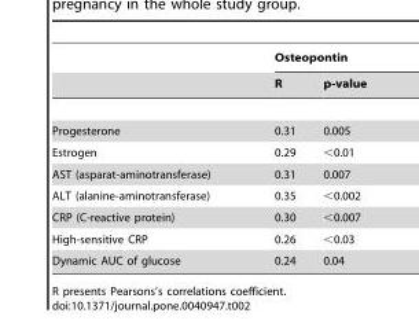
<table><thead><tr><td rowspan="2"></td><td colspan="2">Osteopontin</td></tr><tr><td>R</td><td>p-value</td></tr></thead><tbody><tr><td>Progesterone</td><td>0.31</td><td>0.005</td></tr><tr><td>Estrogen</td><td>0.29</td><td>&lt;0.01</td></tr><tr><td>AST (asparat-aminotransferase)</td><td>0.31</td><td>0.007</td></tr><tr><td>ALT (alanine-aminotransferase)</td><td>0.35</td><td>&lt;0.002</td></tr><tr><td>CRP (C-reactive protein)</td><td>0.30</td><td>&lt;0.007</td></tr><tr><td>High-sensitive CRP</td><td>0.26</td><td>&lt;0.03</td></tr><tr><td>Dynamic AUC of glucose</td><td>0.24</td><td>0.04</td></tr></tbody></table>